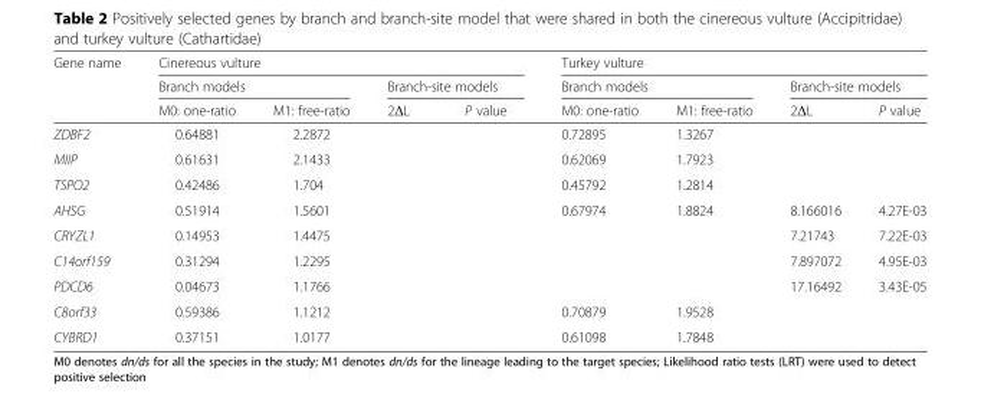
<table><thead><tr><td rowspan="3">Gene name</td><td colspan="4">Cinereous vulture</td><td colspan="4">Turkey vulture</td></tr><tr><td colspan="2">Branch models</td><td colspan="2">Branch-site models</td><td colspan="2">Branch models</td><td colspan="2">Branch-site models</td></tr><tr><td>M0: one-ratio</td><td>M1: free-ratio</td><td>2ΔL</td><td>P value</td><td>M0: one-ratio</td><td>M1: free-ratio</td><td>2ΔL</td><td>P value</td></tr></thead><tbody><tr><td>ZDBF2</td><td>0.64881</td><td>2.2872</td><td></td><td></td><td>0.72895</td><td>1.3267</td><td></td><td></td></tr><tr><td>MIIP</td><td>0.61631</td><td>2.1433</td><td></td><td></td><td>0.62069</td><td>1.7923</td><td></td><td></td></tr><tr><td>TSPO2</td><td>0.42486</td><td>1.704</td><td></td><td></td><td>0.45792</td><td>1.2814</td><td></td><td></td></tr><tr><td>AHSG</td><td>0.51914</td><td>1.5601</td><td></td><td></td><td>0.67974</td><td>1.8824</td><td>8.166016</td><td>4.27E-03</td></tr><tr><td>CRYZL1</td><td>0.14953</td><td>1.4475</td><td></td><td></td><td></td><td></td><td>7.21743</td><td>7.22E-03</td></tr><tr><td>C14orf159</td><td>0.31294</td><td>1.2295</td><td></td><td></td><td></td><td></td><td>7.897072</td><td>4.95E-03</td></tr><tr><td>PDCD6</td><td>0.04673</td><td>1.1766</td><td></td><td></td><td></td><td></td><td>17.16492</td><td>3.43E-05</td></tr><tr><td>C8orf33</td><td>0.59386</td><td>1.1212</td><td></td><td></td><td>0.70879</td><td>1.9528</td><td></td><td></td></tr><tr><td>CYBRD1</td><td>0.37151</td><td>1.0177</td><td></td><td></td><td>0.61098</td><td>1.7848</td><td></td><td></td></tr></tbody></table>